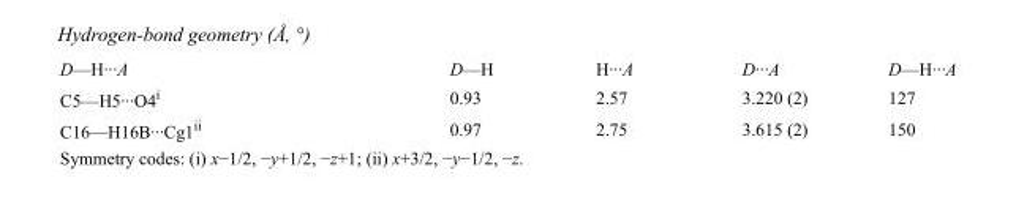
<table><tbody><tr><td>D—H···A</td><td>D—H</td><td>H···A</td><td>D···A</td><td>D—H···A</td></tr><tr><td>C5—H5···O4<sup>i</sup></td><td>0.93</td><td>2.57</td><td>3.220 (2)</td><td>127</td></tr><tr><td>C16—H16B···Cg1<sup>ii</sup></td><td>0.97</td><td>2.75</td><td>3.615 (2)</td><td>150</td></tr></tbody></table>